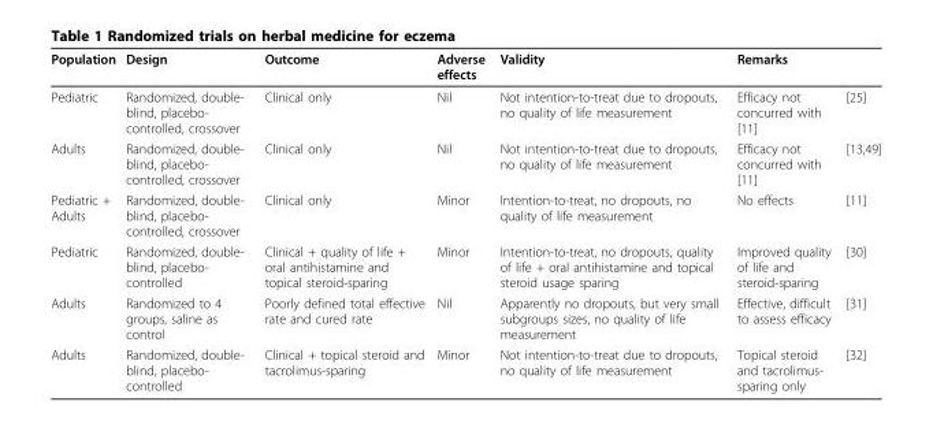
<table><thead><tr><td>Population</td><td>Design</td><td>Outcome</td><td>Adverse effects</td><td>Validity</td><td>Remarks</td><td></td></tr></thead><tbody><tr><td>Pediatric</td><td>Randomized, double- blind, placebo- controlled, crossover</td><td>Clinical only</td><td>Nil</td><td>Not intention-to-treat due to dropouts, no quality of life measurement</td><td>Efficacy not concurred with [11]</td><td>[25]</td></tr><tr><td>Adults</td><td>Randomized, double- blind, placebo- controlled, crossover</td><td>Clinical only</td><td>Nil</td><td>Not intention-to-treat due to dropouts, no quality of life measurement</td><td>Efficacy not concurred with [11]</td><td>[13,49]</td></tr><tr><td>Pediatric + Adults</td><td>Randomized, double- blind, placebo- controlled, crossover</td><td>Clinical only</td><td>Minor</td><td>Intention-to-treat, no dropouts, no quality of life measurement</td><td>No effects</td><td>[11]</td></tr><tr><td>Pediatric</td><td>Randomized, double- blind, placebo- controlled</td><td>Clinical + quality of life + oral antihistamine and topical steroid-sparing</td><td>Minor</td><td>Intention-to-treat, no dropouts, quality of life + oral antihistamine and topical steroid usage sparing</td><td>Improved quality of life and steroid-sparing</td><td>[30]</td></tr><tr><td>Adults</td><td>Randomized to 4 groups, saline as control</td><td>Poorly defined total effective rate and cured rate</td><td>Nil</td><td>Apparently no dropouts, but very small subgroups sizes, no quality of life measurement</td><td>Effective, difficult to assess efficacy</td><td>[31]</td></tr><tr><td>Adults</td><td>Randomized, double- blind, placebo- controlled</td><td>Clinical + topical steroid and tacrolimus-sparing</td><td>Minor</td><td>Not intention-to-treat due to dropouts, no quality of life measurement</td><td>Topical steroid and tacrolimus- sparing only</td><td>[32]</td></tr></tbody></table>